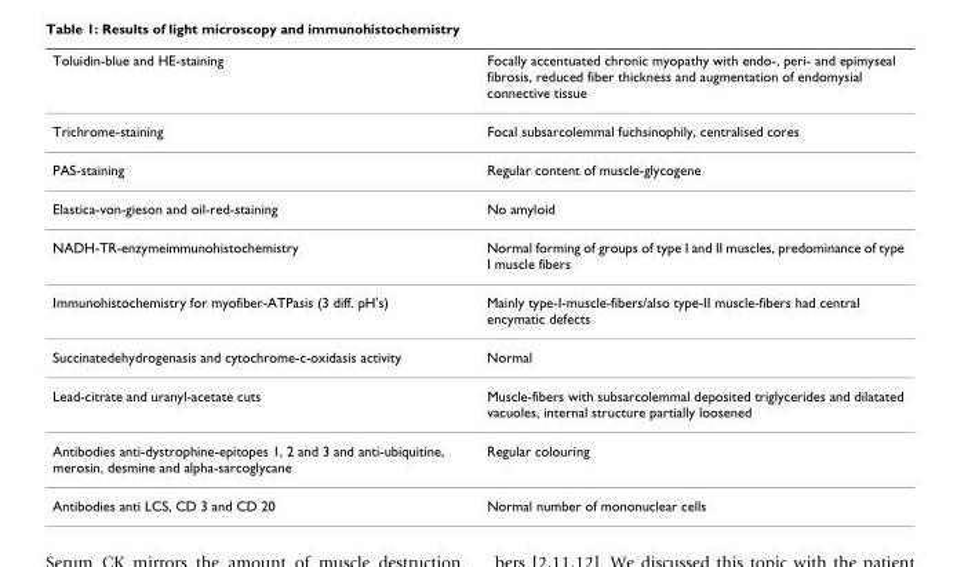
<table><thead><tr><td>Toluidin-blue and HE-staining</td><td>Focally accentuated chronic myopathy with endo-, peri- and epimyseal fibrosis, reduced fiber thickness and augmentation of endomysial connective tissue</td></tr></thead><tbody><tr><td>Trichrome-staining</td><td>Focal subsarcolemmal fuchsinophily, centralised cores</td></tr><tr><td>PAS-staining</td><td>Regular content of muscle-glycogene</td></tr><tr><td>Elastica-von-gieson and oil-red-staining</td><td>No amyloid</td></tr><tr><td>NADH-TR-enzymeimmunohistochemistry</td><td>Normal forming of groups of type I and II muscles, predominance of type I muscle fibers</td></tr><tr><td>Immunohistochemistry for myofiber-ATPasis (3 diff. pH&#x27;s)</td><td>Mainly type-I-muscle-fibers/also type-II muscle-fibers had central encymatic defects</td></tr><tr><td>Succinatedehydrogenasis and cytochrome-c-oxidasis activity</td><td>Normal</td></tr><tr><td>Lead-citrate and uranyl-acetate cuts</td><td>Muscle-fibers with subsarcolemmal deposited triglycerides and dilatated vacuoles, internal structure partially loosened</td></tr><tr><td>Antibodies anti-dystrophine-epitopes 1, 2 and 3 and anti-ubiquitine, merosin, desmine and alpha-sarcoglycane</td><td>Regular colouring</td></tr><tr><td>Antibodies anti LCS, CD 3 and CD 20</td><td>Normal number of mononuclear cells</td></tr></tbody></table>